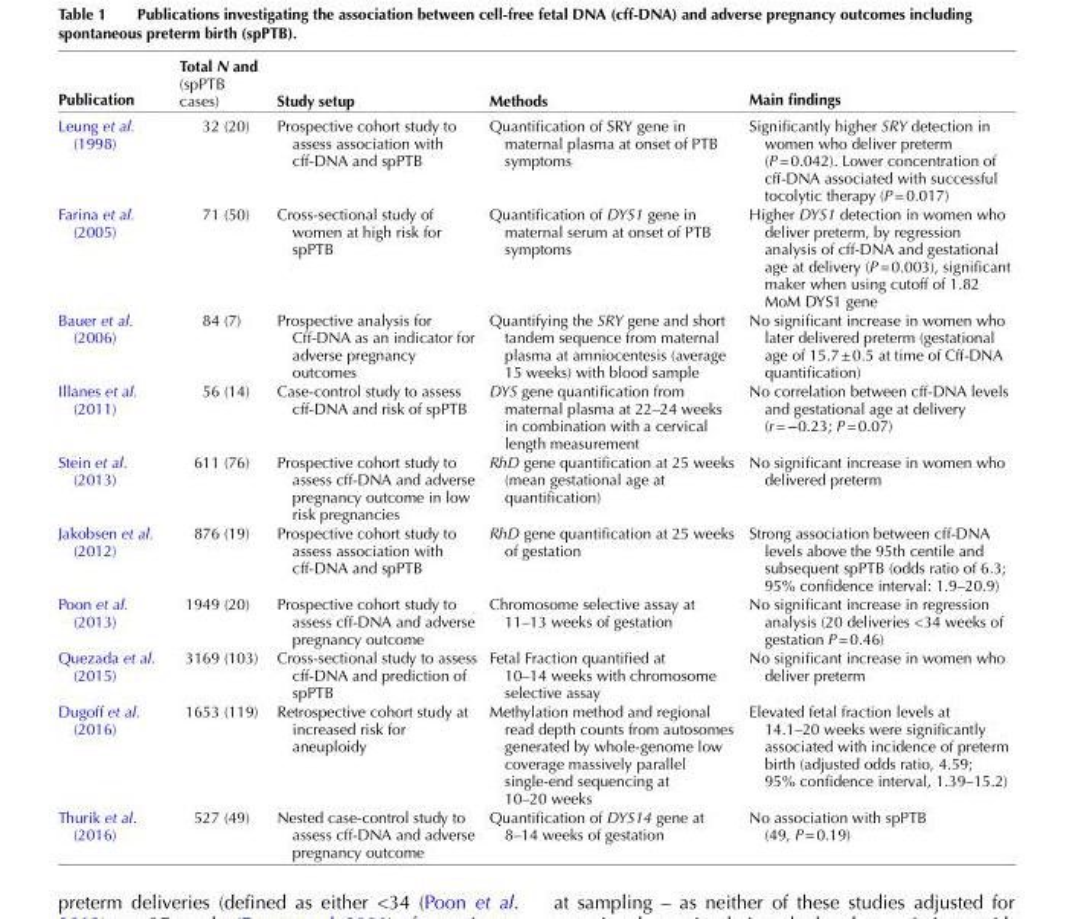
<table><thead><tr><td>Publication</td><td>Total N and (spPTB cases)</td><td>Study setup</td><td>Methods</td><td>Main findings</td></tr></thead><tbody><tr><td>Leung et al. (1998)</td><td>32 (20)</td><td>Prospective cohort study to assess association with cff-DNA and spPTB</td><td>Quantification of SRY gene in maternal plasma at onset of PTB symptoms</td><td>Significantly higher SRY detection in women who deliver preterm (P = 0.042). Lower concentration of cff-DNA associated with successful tocolytic therapy (P = 0.017)</td></tr><tr><td>Farina et al. (2005)</td><td>71 (50)</td><td>Cross-sectional study of women at high risk for spPTB</td><td>Quantification of DYS1 gene in maternal serum at onset of PTB symptoms</td><td>Higher DYS1 detection in women who deliver preterm, by regression analysis of cff-DNA and gestational age at delivery (P = 0.003), significant maker when using cutoff of 1.82 MoM DYS1 gene</td></tr><tr><td>Bauer et al. (2006)</td><td>84 (7)</td><td>Prospective analysis for Cff-DNA as an indicator for adverse pregnancy outcomes</td><td>Quantifying the SRY gene and short tandem sequence from maternal plasma at amniocentesis (average 15 weeks) with blood sample</td><td>No significant increase in women who later delivered preterm (gestational age of 15.7 ± 0.5 at time of Cff-DNA quantification)</td></tr><tr><td>Illanes et al. (2011)</td><td>56 (14)</td><td>Case-control study to assess cff-DNA and risk of spPTB</td><td>DYS gene quantification from maternal plasma at 22–24 weeks in combination with a cervical length measurement</td><td>No correlation between cff-DNA levels and gestational age at delivery (r = −0.23; P = 0.07)</td></tr><tr><td>Stein et al. (2013)</td><td>611 (76)</td><td>Prospective cohort study to assess cff-DNA and adverse pregnancy outcome in low risk pregnancies</td><td>RhD gene quantification at 25 weeks (mean gestational age at quantification)</td><td>No significant increase in women who delivered preterm</td></tr><tr><td>Jakobsen et al. (2012)</td><td>876 (19)</td><td>Prospective cohort study to assess association with cff-DNA and spPTB</td><td>RhD gene quantification at 25 weeks of gestation</td><td>Strong association between cff-DNA levels above the 95th centile and subsequent spPTB (odds ratio of 6.3; 95% confidence interval: 1.9–20.9)</td></tr><tr><td>Poon et al. (2013)</td><td>1949 (20)</td><td>Prospective cohort study to assess cff-DNA and adverse pregnancy outcome</td><td>Chromosome selective assay at 11–13 weeks of gestation</td><td>No significant increase in regression analysis (20 deliveries &lt;34 weeks of gestation P = 0.46)</td></tr><tr><td>Quezada et al. (2015)</td><td>3169 (103)</td><td>Cross-sectional study to assess cff-DNA and prediction of spPTB</td><td>Fetal Fraction quantified at 10–14 weeks with chromosome selective assay</td><td>No significant increase in women who deliver preterm</td></tr><tr><td>Dugoff et al. (2016)</td><td>1653 (119)</td><td>Retrospective cohort study at increased risk for aneuploidy</td><td>Methylation method and regional read depth counts from autosomes generated by whole-genome low coverage massively parallel single-end sequencing at 10–20 weeks</td><td>Elevated fetal fraction levels at 14.1–20 weeks were significantly associated with incidence of preterm birth (adjusted odds ratio, 4.59; 95% confidence interval, 1.39–15.2)</td></tr><tr><td>Thurik et al. (2016)</td><td>527 (49)</td><td>Nested case-control study to assess cff-DNA and adverse pregnancy outcome</td><td>Quantification of DYS14 gene at 8–14 weeks of gestation</td><td>No association with spPTB (49, P = 0.19)</td></tr></tbody></table>